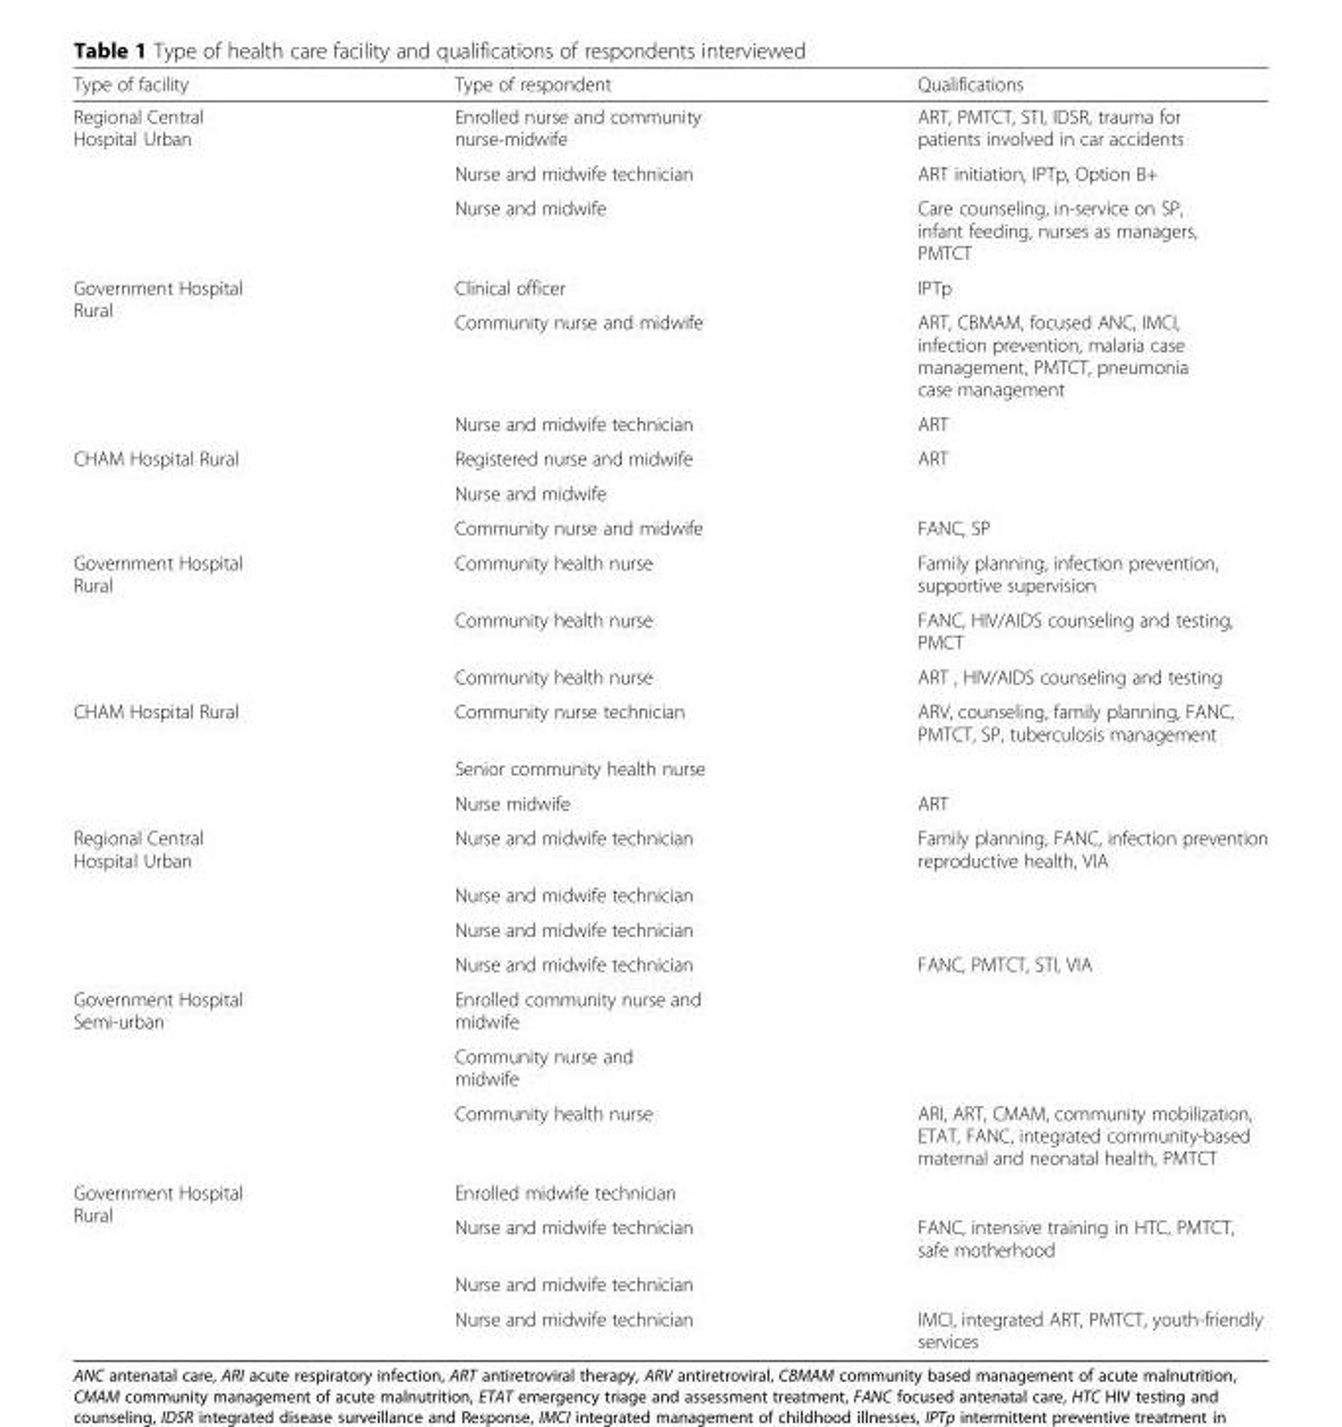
<table><thead><tr><td>Type of facility</td><td>Type of respondent</td><td>Qualifications</td></tr></thead><tbody><tr><td rowspan="3">Regional Central Hospital Urban</td><td>Enrolled nurse and community nurse-midwife</td><td>ART, PMTCT, STI, IDSR, trauma for patients involved in car accidents</td></tr><tr><td>Nurse and midwife technician</td><td>ART initiation, IPTp, Option B+</td></tr><tr><td>Nurse and midwife</td><td>Care counseling, in-service on SP, infant feeding, nurses as managers, PMTCT</td></tr><tr><td rowspan="3">Government Hospital Rural</td><td>Clinical officer</td><td>IPTp</td></tr><tr><td>Community nurse and midwife</td><td>ART, CBMAM, focused ANC, IMCI, infection prevention, malaria case management, PMTCT, pneumonia case management</td></tr><tr><td>Nurse and midwife technician</td><td>ART</td></tr><tr><td rowspan="3">CHAM Hospital Rural</td><td>Registered nurse and midwife</td><td>ART</td></tr><tr><td>Nurse and midwife</td><td></td></tr><tr><td>Community nurse and midwife</td><td>FANC, SP</td></tr><tr><td rowspan="3">Government Hospital Rural</td><td>Community health nurse</td><td>Family planning, infection prevention, supportive supervision</td></tr><tr><td>Community health nurse</td><td>FANC, HIV/AIDS counseling and testing, PMCT</td></tr><tr><td>Community health nurse</td><td>ART , HIV/AIDS counseling and testing</td></tr><tr><td rowspan="3">CHAM Hospital Rural</td><td>Community nurse technician</td><td>ARV, counseling, family planning, FANC, PMTCT, SP, tuberculosis management</td></tr><tr><td>Senior community health nurse</td><td></td></tr><tr><td>Nurse midwife</td><td>ART</td></tr><tr><td rowspan="4">Regional Central Hospital Urban</td><td>Nurse and midwife technician</td><td>Family planning, FANC, infection prevention reproductive health, VIA</td></tr><tr><td>Nurse and midwife technician</td><td></td></tr><tr><td>Nurse and midwife technician</td><td></td></tr><tr><td>Nurse and midwife technician</td><td>FANC, PMTCT, STI, VIA</td></tr><tr><td rowspan="3">Government Hospital Semi-urban</td><td>Enrolled community nurse and midwife</td><td></td></tr><tr><td>Community nurse and midwife</td><td></td></tr><tr><td>Community health nurse</td><td>ARI, ART, CMAM, community mobilization, ETAT, FANC, integrated community-based maternal and neonatal health, PMTCT</td></tr><tr><td rowspan="4">Government Hospital Rural</td><td>Enrolled midwife technician</td><td></td></tr><tr><td>Nurse and midwife technician</td><td>FANC, intensive training in HTC, PMTCT, safe motherhood</td></tr><tr><td>Nurse and midwife technician</td><td></td></tr><tr><td>Nurse and midwife technician</td><td>IMCI, integrated ART, PMTCT, youth-friendly services</td></tr></tbody></table>